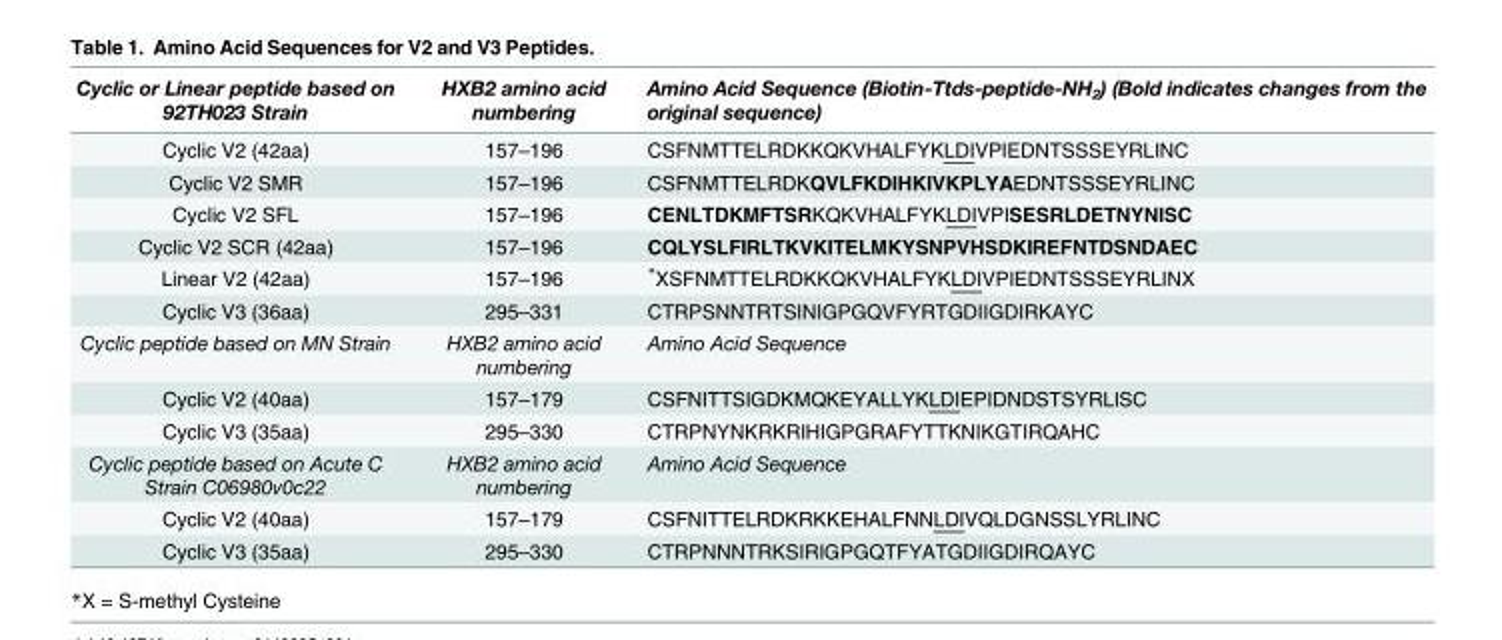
<table><thead><tr><td>Cyclic or Linear peptide based on 92TH023 Strain</td><td>HXB2 amino acid numbering</td><td>Amino Acid Sequence (Biotin-Ttds-peptide-NH<sub>2</sub>) (Bold indicates changes from the original sequence)</td></tr></thead><tbody><tr><td>Cyclic V2 (42aa)</td><td>157–196</td><td>CSFNMTTELRDKKQKVHALFYKLDIVPIEDNTSSSEYRLINC</td></tr><tr><td>Cyclic V2 SMR</td><td>157–196</td><td>CSFNMTTELRDKQVLFKDIHKIVKPLYAEDNTSSSEYRLINC</td></tr><tr><td>Cyclic V2 SFL</td><td>157–196</td><td>CENLTDKMFTSRKQKVHALFYKLDIVPISESRLDETNYNISC</td></tr><tr><td>Cyclic V2 SCR (42aa)</td><td>157–196</td><td>CQLYSLFIRLTKVKITELMKYSNPVHSDKIREFNTDSNDAEC</td></tr><tr><td>Linear V2 (42aa)</td><td>157–196</td><td>*XSFNMTTELRDKKQKVHALFYKLDIVPIEDNTSSSEYRLINX</td></tr><tr><td>Cyclic V3 (36aa)</td><td>295–331</td><td>CTRPSNNTRTSINIGPGQVFYRTGDIIGDIRKAYC</td></tr><tr><td>Cyclic peptide based on MN Strain</td><td>HXB2 amino acid numbering</td><td>Amino Acid Sequence</td></tr><tr><td>Cyclic V2 (40aa)</td><td>157–179</td><td>CSFNITTSIGDKMQKEYALLYKLDIEPIDNDSTSYRLISC</td></tr><tr><td>Cyclic V3 (35aa)</td><td>295–330</td><td>CTRPNYNKRKRIHIGPGRAFYTTKNIKGTIRQAHC</td></tr><tr><td>Cyclic peptide based on Acute C Strain C06980v0c22</td><td>HXB2 amino acid numbering</td><td>Amino Acid Sequence</td></tr><tr><td>Cyclic V2 (40aa)</td><td>157–179</td><td>CSFNITTELRDKRKKEHALFNNLDIVQLDGNSSLYRLINC</td></tr><tr><td>Cyclic V3 (35aa)</td><td>295–330</td><td>CTRPNNNTRKSIRIGPGQTFYATGDIIGDIRQAYC</td></tr></tbody></table>